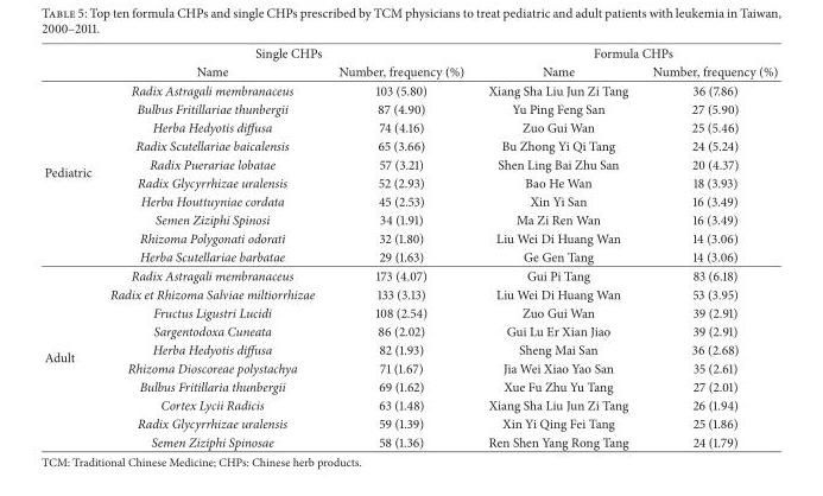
<table><thead><tr><td rowspan="2"></td><td colspan="2">Single CHPs</td><td colspan="2">Formula CHPs</td></tr><tr><td>Name</td><td>Number, frequency (%)</td><td>Name</td><td>Number, frequency (%)</td></tr></thead><tbody><tr><td rowspan="10">Pediatric</td><td>Radix Astragali membranaceus</td><td>103 (5.80)</td><td>Xiang Sha Liu Jun Zi Tang</td><td>36 (7.86)</td></tr><tr><td>Bulbus Fritillariae thunbergii</td><td>87 (4.90)</td><td>Yu Ping Feng San</td><td>27 (5.90)</td></tr><tr><td>Herba Hedyotis diffusa</td><td>74 (4.16)</td><td>Zuo Gui Wan</td><td>25 (5.46)</td></tr><tr><td>Radix Scutellariae baicalensis</td><td>65 (3.66)</td><td>Bu Zhong Yi Qi Tang</td><td>24 (5.24)</td></tr><tr><td>Radix Puerariae lobatae</td><td>57 (3.21)</td><td>Shen Ling Bai Zhu San</td><td>20 (4.37)</td></tr><tr><td>Radix Glycyrrhizae uralensis</td><td>52 (2.93)</td><td>Bao He Wan</td><td>18 (3.93)</td></tr><tr><td>Herba Houttuyniae cordata</td><td>45 (2.53)</td><td>Xin Yi San</td><td>16 (3.49)</td></tr><tr><td>Semen Ziziphi Spinosi</td><td>34 (1.91)</td><td>Ma Zi Ren Wan</td><td>16 (3.49)</td></tr><tr><td>Rhizoma Polygonati odorati</td><td>32 (1.80)</td><td>Liu Wei Di Huang Wan</td><td>14 (3.06)</td></tr><tr><td>Herba Scutellariae barbatae</td><td>29 (1.63)</td><td>Ge Gen Tang</td><td>14 (3.06)</td></tr><tr><td rowspan="10">Adult</td><td>Radix Astragali membranaceus</td><td>173 (4.07)</td><td>Gui Pi Tang</td><td>83 (6.18)</td></tr><tr><td>Radix et Rhizoma Salviae miltiorrhizae</td><td>133 (3.13)</td><td>Liu Wei Di Huang Wan</td><td>53 (3.95)</td></tr><tr><td>Fructus Ligustri Lucidi</td><td>108 (2.54)</td><td>Zuo Gui Wan</td><td>39 (2.91)</td></tr><tr><td>Sargentodoxa Cuneata</td><td>86 (2.02)</td><td>Gui Lu Er Xian Jiao</td><td>39 (2.91)</td></tr><tr><td>Herba Hedyotis diffusa</td><td>82 (1.93)</td><td>Sheng Mai San</td><td>36 (2.68)</td></tr><tr><td>Rhizoma Dioscoreae polystachya</td><td>71 (1.67)</td><td>Jia Wei Xiao Yao San</td><td>35 (2.61)</td></tr><tr><td>Bulbus Fritillaria thunbergii</td><td>69 (1.62)</td><td>Xue Fu Zhu Yu Tang</td><td>27 (2.01)</td></tr><tr><td>Cortex Lycii Radicis</td><td>63 (1.48)</td><td>Xiang Sha Liu Jun Zi Tang</td><td>26 (1.94)</td></tr><tr><td>Radix Glycyrrhizae uralensis</td><td>59 (1.39)</td><td>Xin Yi Qing Fei Tang</td><td>25 (1.86)</td></tr><tr><td>Semen Ziziphi Spinosae</td><td>58 (1.36)</td><td>Ren Shen Yang Rong Tang</td><td>24 (1.79)</td></tr></tbody></table>